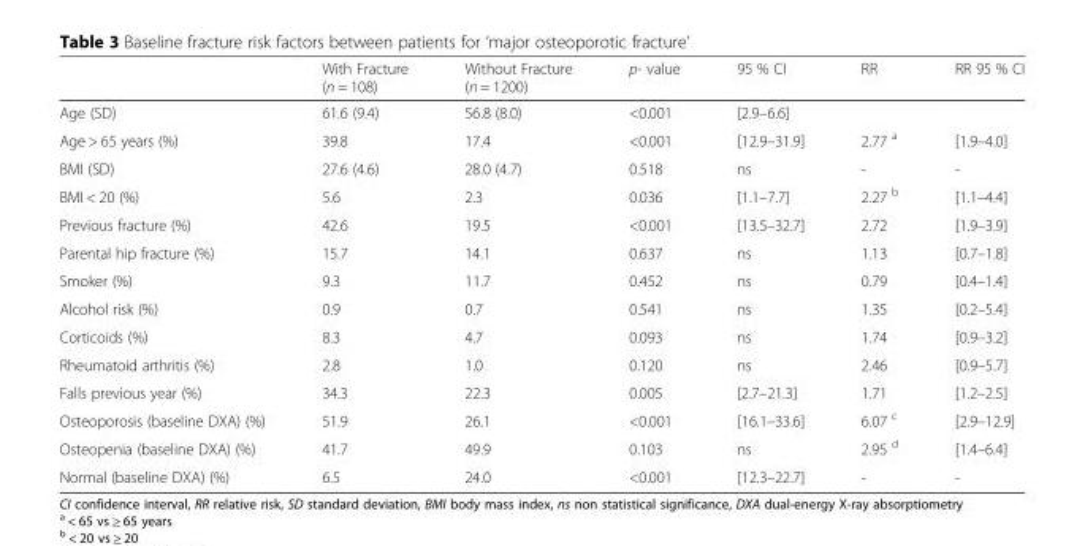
<table><thead><tr><td></td><td>With Fracture (n = 108)</td><td>Without Fracture (n = 1200)</td><td>p- value</td><td>95 % CI</td><td>RR</td><td>RR 95 % CI</td></tr></thead><tbody><tr><td>Age (SD)</td><td>61.6 (9.4)</td><td>56.8 (8.0)</td><td>&lt;0.001</td><td>[2.9–6.6]</td><td></td><td></td></tr><tr><td>Age &gt; 65 years (%)</td><td>39.8</td><td>17.4</td><td>&lt;0.001</td><td>[12.9–31.9]</td><td>2.77 <sup>a</sup></td><td>[1.9–4.0]</td></tr><tr><td>BMI (SD)</td><td>27.6 (4.6)</td><td>28.0 (4.7)</td><td>0.518</td><td>ns</td><td>-</td><td>-</td></tr><tr><td>BMI &lt; 20 (%)</td><td>5.6</td><td>2.3</td><td>0.036</td><td>[1.1–7.7]</td><td>2.27 <sup>b</sup></td><td>[1.1–4.4]</td></tr><tr><td>Previous fracture (%)</td><td>42.6</td><td>19.5</td><td>&lt;0.001</td><td>[13.5–32.7]</td><td>2.72</td><td>[1.9–3.9]</td></tr><tr><td>Parental hip fracture (%)</td><td>15.7</td><td>14.1</td><td>0.637</td><td>ns</td><td>1.13</td><td>[0.7–1.8]</td></tr><tr><td>Smoker (%)</td><td>9.3</td><td>11.7</td><td>0.452</td><td>ns</td><td>0.79</td><td>[0.4–1.4]</td></tr><tr><td>Alcohol risk (%)</td><td>0.9</td><td>0.7</td><td>0.541</td><td>ns</td><td>1.35</td><td>[0.2–5.4]</td></tr><tr><td>Corticoids (%)</td><td>8.3</td><td>4.7</td><td>0.093</td><td>ns</td><td>1.74</td><td>[0.9–3.2]</td></tr><tr><td>Rheumatoid arthritis (%)</td><td>2.8</td><td>1.0</td><td>0.120</td><td>ns</td><td>2.46</td><td>[0.9–5.7]</td></tr><tr><td>Falls previous year (%)</td><td>34.3</td><td>22.3</td><td>0.005</td><td>[2.7–21.3]</td><td>1.71</td><td>[1.2–2.5]</td></tr><tr><td>Osteoporosis (baseline DXA) (%)</td><td>51.9</td><td>26.1</td><td>&lt;0.001</td><td>[16.1–33.6]</td><td>6.07 <sup>c</sup></td><td>[2.9–12.9]</td></tr><tr><td>Osteopenia (baseline DXA) (%)</td><td>41.7</td><td>49.9</td><td>0.103</td><td>ns</td><td>2.95 <sup>d</sup></td><td>[1.4–6.4]</td></tr><tr><td>Normal (baseline DXA) (%)</td><td>6.5</td><td>24.0</td><td>&lt;0.001</td><td>[12.3–22.7]</td><td>-</td><td>-</td></tr></tbody></table>